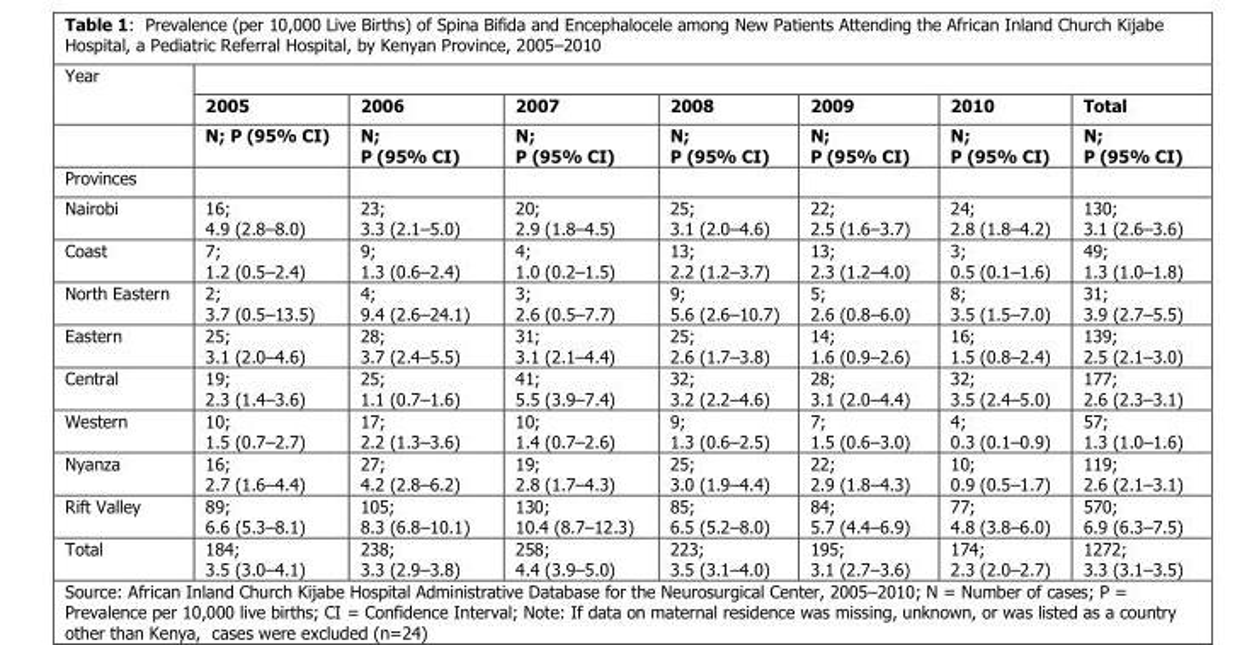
<table><thead><tr><td rowspan="3">Year</td><td rowspan="3">2005 N; P (95% CI)</td><td rowspan="3">2006 N; P (95% CI)</td><td rowspan="3">2007 N; P (95% CI)</td><td rowspan="3">2008 N; P (95% CI)</td><td rowspan="3">2009 N; P (95% CI)</td><td rowspan="3">2010 N; P (95% CI)</td><td rowspan="3">Total N; P (95% CI)</td></tr><tr></tr><tr></tr></thead><tbody><tr><td colspan="8">Provinces</td></tr><tr><td>Nairobi</td><td>16; 4.9 (2.8–8.0)</td><td>23; 3.3 (2.1–5.0)</td><td>20; 2.9 (1.8–4.5)</td><td>25; 3.1 (2.0–4.6)</td><td>22; 2.5 (1.6–3.7)</td><td>24; 2.8 (1.8–4.2)</td><td>130; 3.1 (2.6–3.6)</td></tr><tr><td>Coast</td><td>7; 1.2 (0.5–2.4)</td><td>9; 1.3 (0.6–2.4)</td><td>4; 1.0 (0.2–1.5)</td><td>13; 2.2 (1.2–3.7)</td><td>13; 2.3 (1.2–4.0)</td><td>3; 0.5 (0.1–1.6)</td><td>49; 1.3 (1.0–1.8)</td></tr><tr><td>North Eastern</td><td>2; 3.7 (0.5–13.5)</td><td>4; 9.4 (2.6–24.1)</td><td>3; 2.6 (0.5–7.7)</td><td>9; 5.6 (2.6–10.7)</td><td>5; 2.6 (0.8–6.0)</td><td>8; 3.5 (1.5–7.0)</td><td>31; 3.9 (2.7–5.5)</td></tr><tr><td>Eastern</td><td>25; 3.1 (2.0–4.6)</td><td>28; 3.7 (2.4–5.5)</td><td>31; 3.1 (2.1–4.4)</td><td>25; 2.6 (1.7–3.8)</td><td>14; 1.6 (0.9–2.6)</td><td>16; 1.5 (0.8–2.4)</td><td>139; 2.5 (2.1–3.0)</td></tr><tr><td>Central</td><td>19; 2.3 (1.4–3.6)</td><td>25; 1.1 (0.7–1.6)</td><td>41; 5.5 (3.9–7.4)</td><td>32; 3.2 (2.2–4.6)</td><td>28; 3.1 (2.0–4.4)</td><td>32; 3.5 (2.4–5.0)</td><td>177; 2.6 (2.3–3.1)</td></tr><tr><td>Western</td><td>10; 1.5 (0.7–2.7)</td><td>17; 2.2 (1.3–3.6)</td><td>10; 1.4 (0.7–2.6)</td><td>9; 1.3 (0.6–2.5)</td><td>7; 1.5 (0.6–3.0)</td><td>4; 0.3 (0.1–0.9)</td><td>57; 1.3 (1.0–1.6)</td></tr><tr><td>Nyanza</td><td>16; 2.7 (1.6–4.4)</td><td>27; 4.2 (2.8–6.2)</td><td>19; 2.8 (1.7–4.3)</td><td>25; 3.0 (1.9–4.4)</td><td>22; 2.9 (1.8–4.3)</td><td>10; 0.9 (0.5–1.7)</td><td>119; 2.6 (2.1–3.1)</td></tr><tr><td>Rift Valley</td><td>89; 6.6 (5.3–8.1)</td><td>105; 8.3 (6.8–10.1)</td><td>130; 10.4 (8.7–12.3)</td><td>85; 6.5 (5.2–8.0)</td><td>84; 5.7 (4.4–6.9)</td><td>77; 4.8 (3.8–6.0)</td><td>570; 6.9 (6.3–7.5)</td></tr><tr><td>Total</td><td>184; 3.5 (3.0–4.1)</td><td>238; 3.3 (2.9–3.8)</td><td>258; 4.4 (3.9–5.0)</td><td>223; 3.5 (3.1–4.0)</td><td>195; 3.1 (2.7–3.6)</td><td>174; 2.3 (2.0–2.7)</td><td>1272; 3.3 (3.1–3.5)</td></tr></tbody></table>